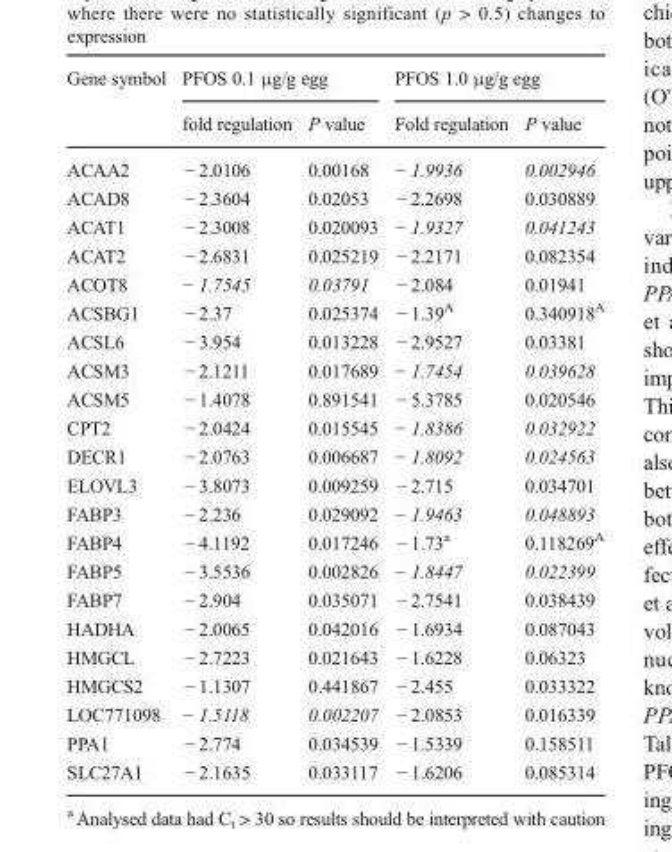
<table><thead><tr><td rowspan="2">Gene symbol</td><td colspan="2">PFOS 0.1 μg/g egg</td><td colspan="2">PFOS 1.0 μg/g egg</td></tr><tr><td>fold regulation</td><td>P value</td><td>Fold regulation</td><td>P value</td></tr></thead><tbody><tr><td>ACAA2</td><td>− 2.0106</td><td>0.00168</td><td>− 1.9936</td><td>0.002946</td></tr><tr><td>ACAD8</td><td>− 2.3604</td><td>0.02053</td><td>− 2.2698</td><td>0.030889</td></tr><tr><td>ACAT1</td><td>− 2.3008</td><td>0.020093</td><td>− 1.9327</td><td>0.041243</td></tr><tr><td>ACAT2</td><td>− 2.6831</td><td>0.025219</td><td>− 2.2171</td><td>0.082354</td></tr><tr><td>ACOT8</td><td>− 1.7545</td><td>0.03791</td><td>− 2.084</td><td>0.01941</td></tr><tr><td>ACSBG1</td><td>− 2.37</td><td>0.025374</td><td>− 1.39<sup>A</sup></td><td>0.340918<sup>A</sup></td></tr><tr><td>ACSL6</td><td>− 3.954</td><td>0.013228</td><td>− 2.9527</td><td>0.03381</td></tr><tr><td>ACSM3</td><td>− 2.1211</td><td>0.017689</td><td>− 1.7454</td><td>0.039628</td></tr><tr><td>ACSM5</td><td>− 1.4078</td><td>0.891541</td><td>− 5.3785</td><td>0.020546</td></tr><tr><td>CPT2</td><td>− 2.0424</td><td>0.015545</td><td>− 1.8386</td><td>0.032922</td></tr><tr><td>DECR1</td><td>− 2.0763</td><td>0.006687</td><td>− 1.8092</td><td>0.024563</td></tr><tr><td>ELOVL3</td><td>− 3.8073</td><td>0.009259</td><td>− 2.715</td><td>0.034701</td></tr><tr><td>FABP3</td><td>− 2.236</td><td>0.029092</td><td>− 1.9463</td><td>0.048893</td></tr><tr><td>FABP4</td><td>− 4.1192</td><td>0.017246</td><td>− 1.73<sup>a</sup></td><td>0.118269<sup>A</sup></td></tr><tr><td>FABP5</td><td>− 3.5536</td><td>0.002826</td><td>− 1.8447</td><td>0.022399</td></tr><tr><td>FABP7</td><td>− 2.904</td><td>0.035071</td><td>− 2.7541</td><td>0.038439</td></tr><tr><td>HADHA</td><td>− 2.0065</td><td>0.042016</td><td>− 1.6934</td><td>0.087043</td></tr><tr><td>HMGCL</td><td>− 2.7223</td><td>0.021643</td><td>− 1.6228</td><td>0.06323</td></tr><tr><td>HMGCS2</td><td>− 1.1307</td><td>0.441867</td><td>− 2.455</td><td>0.033322</td></tr><tr><td>LOC771098</td><td>− 1.5118</td><td>0.002207</td><td>− 2.0853</td><td>0.016339</td></tr><tr><td>PPA1</td><td>− 2.774</td><td>0.034539</td><td>− 1.5339</td><td>0.158511</td></tr><tr><td>SLC27A1</td><td>− 2.1635</td><td>0.033117</td><td>− 1.6206</td><td>0.085314</td></tr></tbody></table>